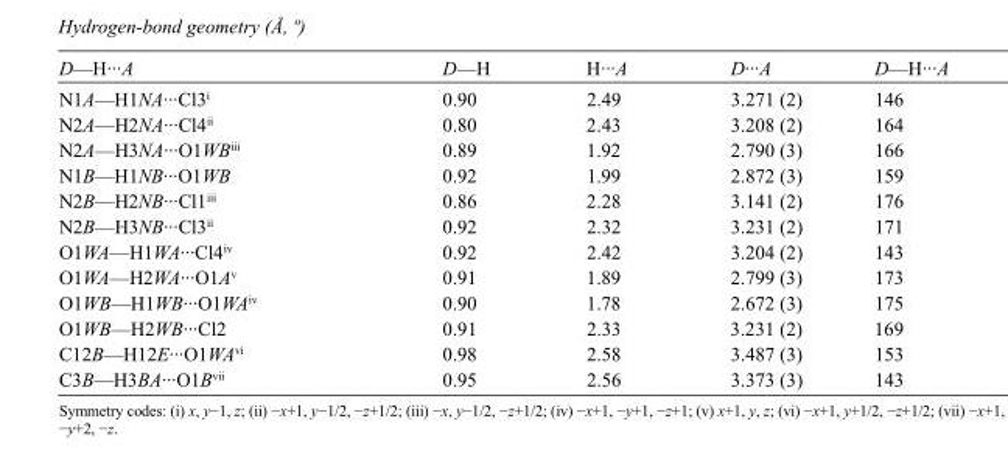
<table><tbody><tr><td>D—H···A</td><td>D—H</td><td>H···A</td><td>D···A</td><td>D—H···A</td></tr><tr><td>N1A—H1NA···Cl3<sup>i</sup></td><td>0.90</td><td>2.49</td><td>3.271 (2)</td><td>146</td></tr><tr><td>N2A—H2NA···Cl4<sup>ii</sup></td><td>0.80</td><td>2.43</td><td>3.208 (2)</td><td>164</td></tr><tr><td>N2A—H3NA···O1WB<sup>iii</sup></td><td>0.89</td><td>1.92</td><td>2.790 (3)</td><td>166</td></tr><tr><td>N1B—H1NB···O1WB</td><td>0.92</td><td>1.99</td><td>2.872 (3)</td><td>159</td></tr><tr><td>N2B—H2NB···Cl1<sup>iii</sup></td><td>0.86</td><td>2.28</td><td>3.141 (2)</td><td>176</td></tr><tr><td>N2B—H3NB···Cl3<sup>ii</sup></td><td>0.92</td><td>2.32</td><td>3.231 (2)</td><td>171</td></tr><tr><td>O1WA—H1WA···Cl4<sup>iv</sup></td><td>0.92</td><td>2.42</td><td>3.204 (2)</td><td>143</td></tr><tr><td>O1WA—H2WA···O1A<sup>v</sup></td><td>0.91</td><td>1.89</td><td>2.799 (3)</td><td>173</td></tr><tr><td>O1WB—H1WB···O1WA<sup>iv</sup></td><td>0.90</td><td>1.78</td><td>2.672 (3)</td><td>175</td></tr><tr><td>O1WB—H2WB···Cl2</td><td>0.91</td><td>2.33</td><td>3.231 (2)</td><td>169</td></tr><tr><td>C12B—H12E···O1WA<sup>vi</sup></td><td>0.98</td><td>2.58</td><td>3.487 (3)</td><td>153</td></tr><tr><td>C3B—H3BA···O1B<sup>vii</sup></td><td>0.95</td><td>2.56</td><td>3.373 (3)</td><td>143</td></tr></tbody></table>